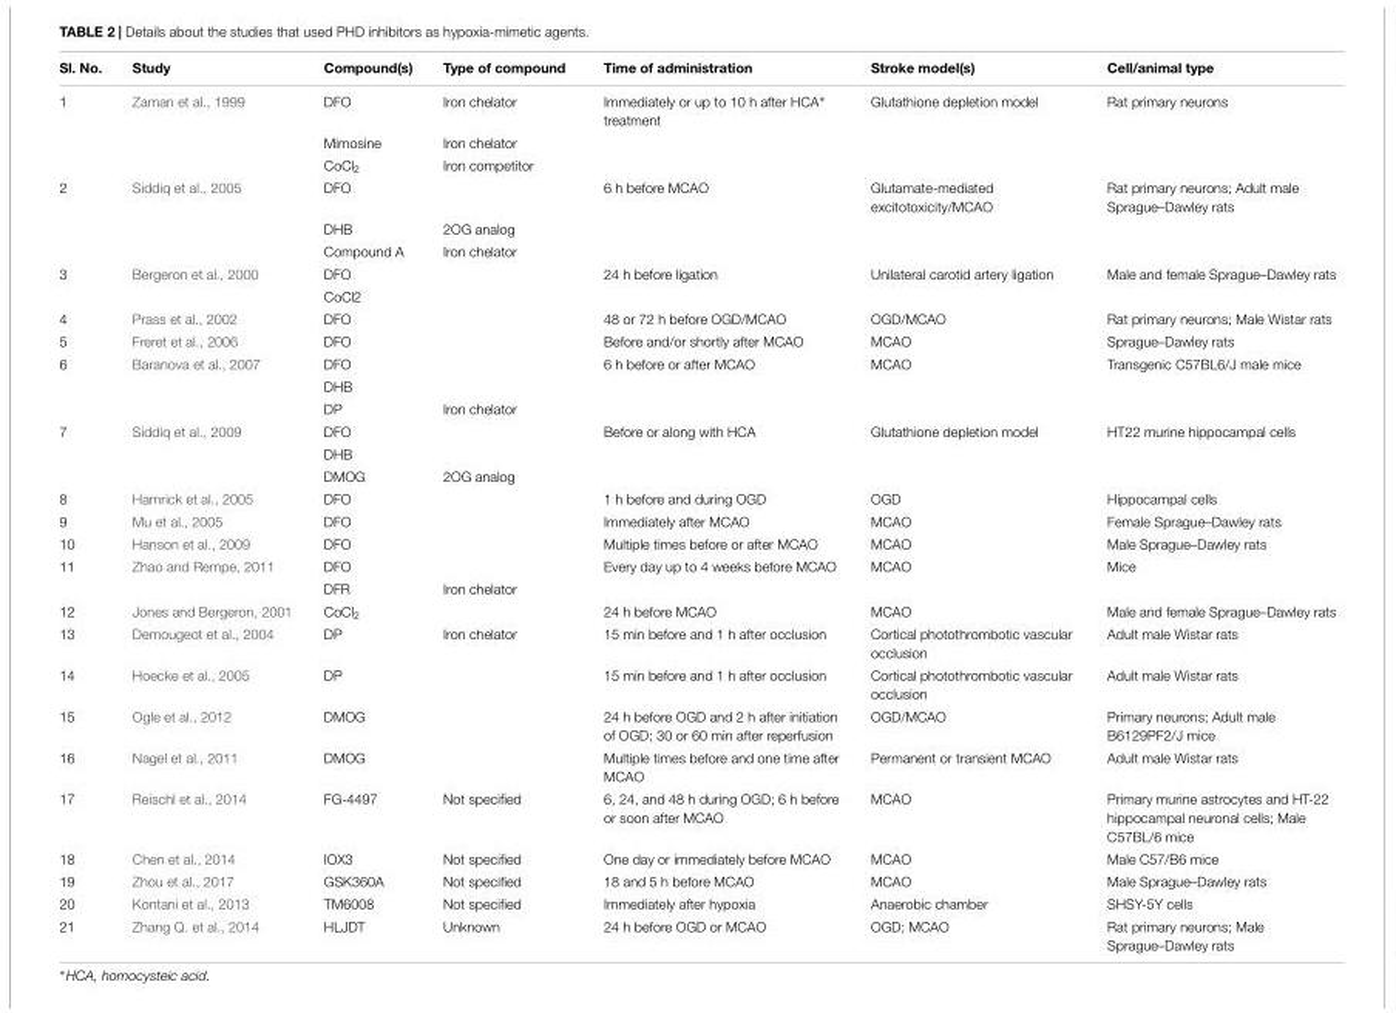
<table><thead><tr><td>Sl. No.</td><td>Study</td><td>Compound(s)</td><td>Type of compound</td><td>Time of administration</td><td>Stroke model(s)</td><td>Cell/animal type</td></tr></thead><tbody><tr><td rowspan="3">1</td><td>Zaman et al., 1999</td><td>DFO</td><td>Iron chelator</td><td>Immediately or up to 10 h after HCA∗ treatment</td><td>Glutathione depletion model</td><td>Rat primary neurons</td></tr><tr><td></td><td>Mimosine</td><td>Iron chelator</td><td></td><td></td><td></td></tr><tr><td></td><td>CoCl<sub>2</sub></td><td>Iron competitor</td><td></td><td></td><td></td></tr><tr><td rowspan="3">2</td><td>Siddiq et al., 2005</td><td>DFO</td><td></td><td>6 h before MCAO</td><td>Glutamate-mediated excitotoxicity/MCAO</td><td>Rat primary neurons; Adult male Sprague–Dawley rats</td></tr><tr><td></td><td>DHB</td><td>2OG analog</td><td></td><td></td><td></td></tr><tr><td></td><td>Compound A</td><td>Iron chelator</td><td></td><td></td><td></td></tr><tr><td rowspan="2">3</td><td>Bergeron et al., 2000</td><td>DFO</td><td></td><td>24 h before ligation</td><td>Unilateral carotid artery ligation</td><td>Male and female Sprague–Dawley rats</td></tr><tr><td></td><td>CoCl2</td><td></td><td></td><td></td><td></td></tr><tr><td>4</td><td>Prass et al., 2002</td><td>DFO</td><td></td><td>48 or 72 h before OGD/MCAO</td><td>OGD/MCAO</td><td>Rat primary neurons; Male Wistar rats</td></tr><tr><td>5</td><td>Freret et al., 2006</td><td>DFO</td><td></td><td>Before and/or shortly after MCAO</td><td>MCAO</td><td>Sprague–Dawley rats</td></tr><tr><td rowspan="3">6</td><td>Baranova et al., 2007</td><td>DFO</td><td></td><td>6 h before or after MCAO</td><td>MCAO</td><td>Transgenic C57BL6/J male mice</td></tr><tr><td></td><td>DHB</td><td></td><td></td><td></td><td></td></tr><tr><td></td><td>DP</td><td>Iron chelator</td><td></td><td></td><td></td></tr><tr><td rowspan="3">7</td><td>Siddiq et al., 2009</td><td>DFO</td><td></td><td>Before or along with HCA</td><td>Glutathione depletion model</td><td>HT22 murine hippocampal cells</td></tr><tr><td></td><td>DHB</td><td></td><td></td><td></td><td></td></tr><tr><td></td><td>DMOG</td><td>2OG analog</td><td></td><td></td><td></td></tr><tr><td>8</td><td>Hamrick et al., 2005</td><td>DFO</td><td></td><td>1 h before and during OGD</td><td>OGD</td><td>Hippocampal cells</td></tr><tr><td>9</td><td>Mu et al., 2005</td><td>DFO</td><td></td><td>Immediately after MCAO</td><td>MCAO</td><td>Female Sprague–Dawley rats</td></tr><tr><td>10</td><td>Hanson et al., 2009</td><td>DFO</td><td></td><td>Multiple times before or after MCAO</td><td>MCAO</td><td>Male Sprague–Dawley rats</td></tr><tr><td rowspan="2">11</td><td>Zhao and Rempe, 2011</td><td>DFO</td><td></td><td>Every day up to 4 weeks before MCAO</td><td>MCAO</td><td>Mice</td></tr><tr><td></td><td>DFR</td><td>Iron chelator</td><td></td><td></td><td></td></tr><tr><td>12</td><td>Jones and Bergeron, 2001</td><td>CoCl<sub>2</sub></td><td></td><td>24 h before MCAO</td><td>MCAO</td><td>Male and female Sprague–Dawley rats</td></tr><tr><td>13</td><td>Demougeot et al., 2004</td><td>DP</td><td>Iron chelator</td><td>15 min before and 1 h after occlusion</td><td>Cortical photothrombotic vascular occlusion</td><td>Adult male Wistar rats</td></tr><tr><td>14</td><td>Hoecke et al., 2005</td><td>DP</td><td></td><td>15 min before and 1 h after occlusion</td><td>Cortical photothrombotic vascular occlusion</td><td>Adult male Wistar rats</td></tr><tr><td>15</td><td>Ogle et al., 2012</td><td>DMOG</td><td></td><td>24 h before OGD and 2 h after initiation of OGD; 30 or 60 min after reperfusion</td><td>OGD/MCAO</td><td>Primary neurons; Adult male B6129PF2/J mice</td></tr><tr><td>16</td><td>Nagel et al., 2011</td><td>DMOG</td><td></td><td>Multiple times before and one time after MCAO</td><td>Permanent or transient MCAO</td><td>Adult male Wistar rats</td></tr><tr><td>17</td><td>Reischl et al., 2014</td><td>FG-4497</td><td>Not specified</td><td>6, 24, and 48 h during OGD; 6 h before or soon after MCAO</td><td>MCAO</td><td>Primary murine astrocytes and HT-22 hippocampal neuronal cells; Male C57BL/6 mice</td></tr><tr><td>18</td><td>Chen et al., 2014</td><td>IOX3</td><td>Not specified</td><td>One day or immediately before MCAO</td><td>MCAO</td><td>Male C57/B6 mice</td></tr><tr><td>19</td><td>Zhou et al., 2017</td><td>GSK360A</td><td>Not specified</td><td>18 and 5 h before MCAO</td><td>MCAO</td><td>Male Sprague–Dawley rats</td></tr><tr><td>20</td><td>Kontani et al., 2013</td><td>TM6008</td><td>Not specified</td><td>Immediately after hypoxia</td><td>Anaerobic chamber</td><td>SHSY-5Y cells</td></tr><tr><td>21</td><td>Zhang Q. et al., 2014</td><td>HLJDT</td><td>Unknown</td><td>24 h before OGD or MCAO</td><td>OGD; MCAO</td><td>Rat primary neurons; Male Sprague–Dawley rats</td></tr></tbody></table>